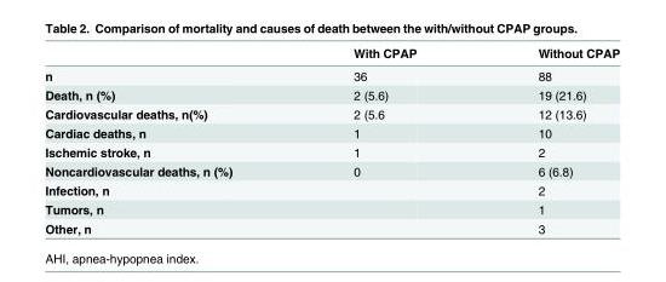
<table><thead><tr><td></td><td>With CPAP</td><td>Without CPAP</td></tr></thead><tbody><tr><td>n</td><td>36</td><td>88</td></tr><tr><td>Death, n (%)</td><td>2 (5.6)</td><td>19 (21.6)</td></tr><tr><td>Cardiovascular deaths, n(%)</td><td>2 (5.6</td><td>12 (13.6)</td></tr><tr><td>Cardiac deaths, n</td><td>1</td><td>10</td></tr><tr><td>Ischemic stroke, n</td><td>1</td><td>2</td></tr><tr><td>Noncardiovascular deaths, n (%)</td><td>0</td><td>6 (6.8)</td></tr><tr><td>Infection, n</td><td></td><td>2</td></tr><tr><td>Tumors, n</td><td></td><td>1</td></tr><tr><td>Other, n</td><td></td><td>3</td></tr></tbody></table>